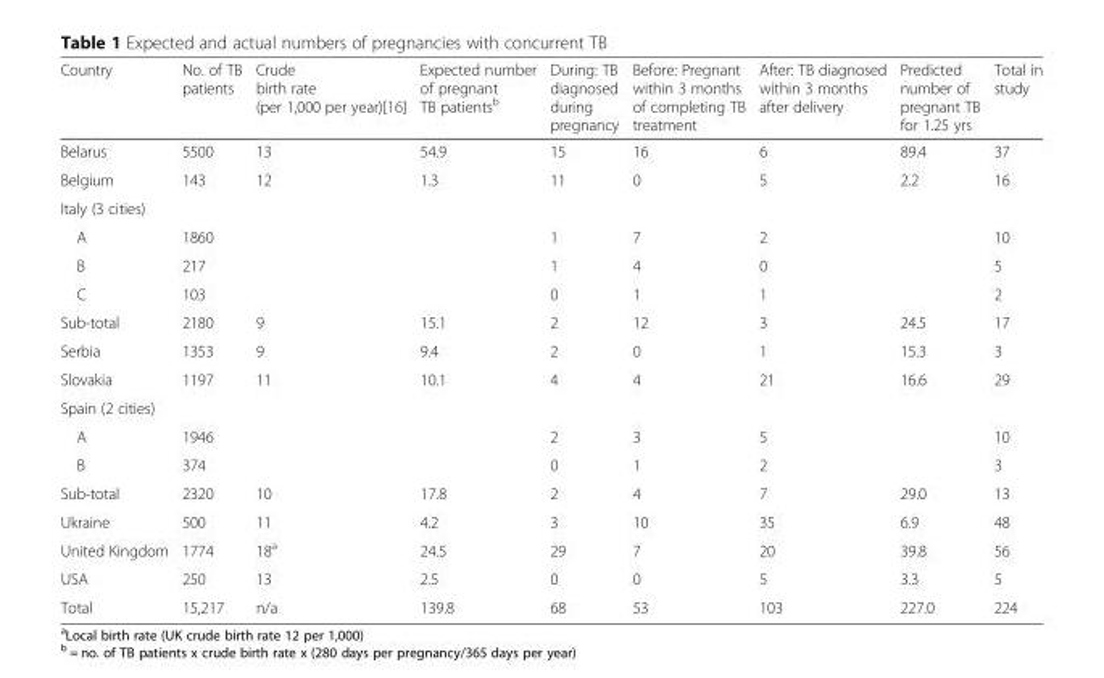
<table><thead><tr><td>Country</td><td>No. of TB patients</td><td>Crude birth rate (per 1,000 per year)[16]</td><td>Expected number of pregnant TB patients<sup>b</sup></td><td>During: TB diagnosed during pregnancy</td><td>Before: Pregnant within 3 months of completing TB treatment</td><td>After: TB diagnosed within 3 months after delivery</td><td>Predicted number of pregnant TB for 1.25 yrs</td><td>Total in study</td></tr></thead><tbody><tr><td>Belarus</td><td>5500</td><td>13</td><td>54.9</td><td>15</td><td>16</td><td>6</td><td>89.4</td><td>37</td></tr><tr><td>Belgium</td><td>143</td><td>12</td><td>1.3</td><td>11</td><td>0</td><td>5</td><td>2.2</td><td>16</td></tr><tr><td colspan="9">Italy (3 cities)</td></tr><tr><td>A</td><td>1860</td><td></td><td></td><td>1</td><td>7</td><td>2</td><td></td><td>10</td></tr><tr><td>B</td><td>217</td><td></td><td></td><td>1</td><td>4</td><td>0</td><td></td><td>5</td></tr><tr><td>C</td><td>103</td><td></td><td></td><td>0</td><td>1</td><td>1</td><td></td><td>2</td></tr><tr><td>Sub-total</td><td>2180</td><td>9</td><td>15.1</td><td>2</td><td>12</td><td>3</td><td>24.5</td><td>17</td></tr><tr><td>Serbia</td><td>1353</td><td>9</td><td>9.4</td><td>2</td><td>0</td><td>1</td><td>15.3</td><td>3</td></tr><tr><td>Slovakia</td><td>1197</td><td>11</td><td>10.1</td><td>4</td><td>4</td><td>21</td><td>16.6</td><td>29</td></tr><tr><td colspan="9">Spain (2 cities)</td></tr><tr><td>A</td><td>1946</td><td></td><td></td><td>2</td><td>3</td><td>5</td><td></td><td>10</td></tr><tr><td>B</td><td>374</td><td></td><td></td><td>0</td><td>1</td><td>2</td><td></td><td>3</td></tr><tr><td>Sub-total</td><td>2320</td><td>10</td><td>17.8</td><td>2</td><td>4</td><td>7</td><td>29.0</td><td>13</td></tr><tr><td>Ukraine</td><td>500</td><td>11</td><td>4.2</td><td>3</td><td>10</td><td>35</td><td>6.9</td><td>48</td></tr><tr><td>United Kingdom</td><td>1774</td><td>18<sup>a</sup></td><td>24.5</td><td>29</td><td>7</td><td>20</td><td>39.8</td><td>56</td></tr><tr><td>USA</td><td>250</td><td>13</td><td>2.5</td><td>0</td><td>0</td><td>5</td><td>3.3</td><td>5</td></tr><tr><td>Total</td><td>15,217</td><td>n/a</td><td>139.8</td><td>68</td><td>53</td><td>103</td><td>227.0</td><td>224</td></tr></tbody></table>